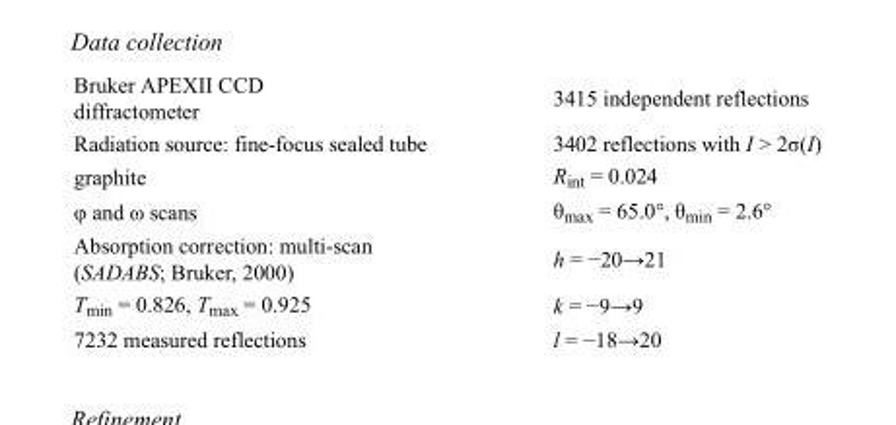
<table><tbody><tr><td>Bruker APEXII CCD diffractometer</td><td>3415 independent reflections</td></tr><tr><td>Radiation source: fine-focus sealed tube</td><td>3402 reflections with I &gt; 2σ(I)</td></tr><tr><td>graphite</td><td>R<sub>int</sub> = 0.024</td></tr><tr><td>φ and ω scans</td><td>θ<sub>max</sub> = 65.0°, θ<sub>min</sub> = 2.6°</td></tr><tr><td>Absorption correction: multi-scan (SADABS; Bruker, 2000)</td><td>h = −20→21</td></tr><tr><td>T<sub>min</sub> = 0.826, T<sub>max</sub> = 0.925</td><td>k = −9→9</td></tr><tr><td>7232 measured reflections</td><td>l = −18→20</td></tr></tbody></table>